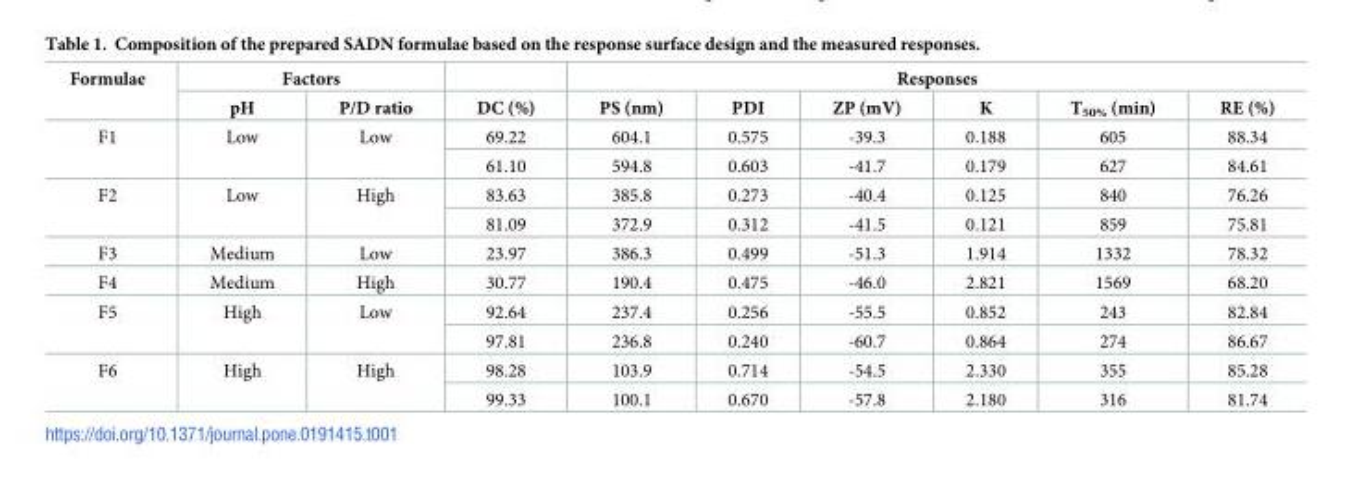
<table><thead><tr><td rowspan="2">Formulae</td><td colspan="2">Factors</td><td rowspan="2">DC (%)</td><td colspan="6">Responses</td></tr><tr><td>pH</td><td>P/D ratio</td><td>PS (nm)</td><td>PDI</td><td>ZP (mV)</td><td>K</td><td>T<sub>50%</sub> (min)</td><td>RE (%)</td></tr></thead><tbody><tr><td rowspan="2">F1</td><td rowspan="2">Low</td><td rowspan="2">Low</td><td>69.22</td><td>604.1</td><td>0.575</td><td>-39.3</td><td>0.188</td><td>605</td><td>88.34</td></tr><tr><td>61.10</td><td>594.8</td><td>0.603</td><td>-41.7</td><td>0.179</td><td>627</td><td>84.61</td></tr><tr><td rowspan="2">F2</td><td rowspan="2">Low</td><td rowspan="2">High</td><td>83.63</td><td>385.8</td><td>0.273</td><td>-40.4</td><td>0.125</td><td>840</td><td>76.26</td></tr><tr><td>81.09</td><td>372.9</td><td>0.312</td><td>-41.5</td><td>0.121</td><td>859</td><td>75.81</td></tr><tr><td>F3</td><td>Medium</td><td>Low</td><td>23.97</td><td>386.3</td><td>0.499</td><td>-51.3</td><td>1.914</td><td>1332</td><td>78.32</td></tr><tr><td>F4</td><td>Medium</td><td>High</td><td>30.77</td><td>190.4</td><td>0.475</td><td>-46.0</td><td>2.821</td><td>1569</td><td>68.20</td></tr><tr><td rowspan="2">F5</td><td rowspan="2">High</td><td rowspan="2">Low</td><td>92.64</td><td>237.4</td><td>0.256</td><td>-55.5</td><td>0.852</td><td>243</td><td>82.84</td></tr><tr><td>97.81</td><td>236.8</td><td>0.240</td><td>-60.7</td><td>0.864</td><td>274</td><td>86.67</td></tr><tr><td rowspan="2">F6</td><td rowspan="2">High</td><td rowspan="2">High</td><td>98.28</td><td>103.9</td><td>0.714</td><td>-54.5</td><td>2.330</td><td>355</td><td>85.28</td></tr><tr><td>99.33</td><td>100.1</td><td>0.670</td><td>-57.8</td><td>2.180</td><td>316</td><td>81.74</td></tr></tbody></table>